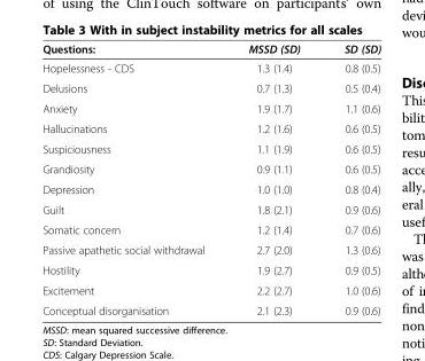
<table><thead><tr><td>Questions:</td><td>MSSD (SD)</td><td>SD (SD)</td></tr></thead><tbody><tr><td>Hopelessness - CDS</td><td>1.3 (1.4)</td><td>0.8 (0.5)</td></tr><tr><td>Delusions</td><td>0.7 (1.3)</td><td>0.5 (0.4)</td></tr><tr><td>Anxiety</td><td>1.9 (1.7)</td><td>1.1 (0.6)</td></tr><tr><td>Hallucinations</td><td>1.2 (1.6)</td><td>0.6 (0.5)</td></tr><tr><td>Suspiciousness</td><td>1.1 (1.9)</td><td>0.6 (0.5)</td></tr><tr><td>Grandiosity</td><td>0.9 (1.1)</td><td>0.6 (0.5)</td></tr><tr><td>Depression</td><td>1.0 (1.0)</td><td>0.8 (0.4)</td></tr><tr><td>Guilt</td><td>1.8 (2.1)</td><td>0.9 (0.6)</td></tr><tr><td>Somatic concern</td><td>1.2 (1.4)</td><td>0.7 (0.6)</td></tr><tr><td>Passive apathetic social withdrawal</td><td>2.7 (2.0)</td><td>1.3 (0.6)</td></tr><tr><td>Hostility</td><td>1.9 (2.7)</td><td>0.9 (0.5)</td></tr><tr><td>Excitement</td><td>2.2 (2.7)</td><td>1.0 (0.6)</td></tr><tr><td>Conceptual disorganisation</td><td>2.1 (2.3)</td><td>0.9 (0.6)</td></tr></tbody></table>